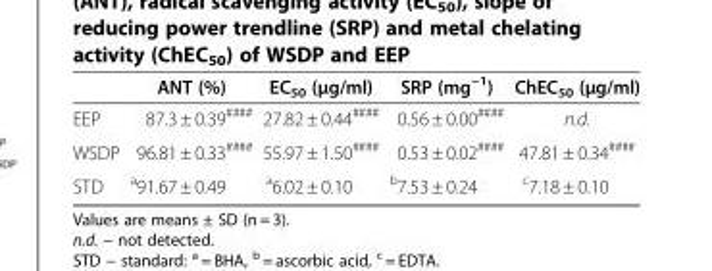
<table><thead><tr><td></td><td>ANT (%)</td><td>EC<sub>50</sub> (μg/ml)</td><td>SRP (mg<sup>−1</sup>)</td><td>ChEC<sub>50</sub> (μg/ml)</td></tr></thead><tbody><tr><td>EEP</td><td>87.3 ± 0.39<sup>####</sup></td><td>27.82 ± 0.44<sup>####</sup></td><td>0.56 ± 0.00<sup>####</sup></td><td>n.d.</td></tr><tr><td>WSDP</td><td>96.81 ± 0.33<sup>####</sup></td><td>55.97 ± 1.50<sup>####</sup></td><td>0.53 ± 0.02<sup>####</sup></td><td>47.81 ± 0.34<sup>####</sup></td></tr><tr><td>STD</td><td><sup>a</sup>91.67 ± 0.49</td><td><sup>a</sup>6.02 ± 0.10</td><td><sup>b</sup>7.53 ± 0.24</td><td><sup>c</sup>7.18 ± 0.10</td></tr></tbody></table>